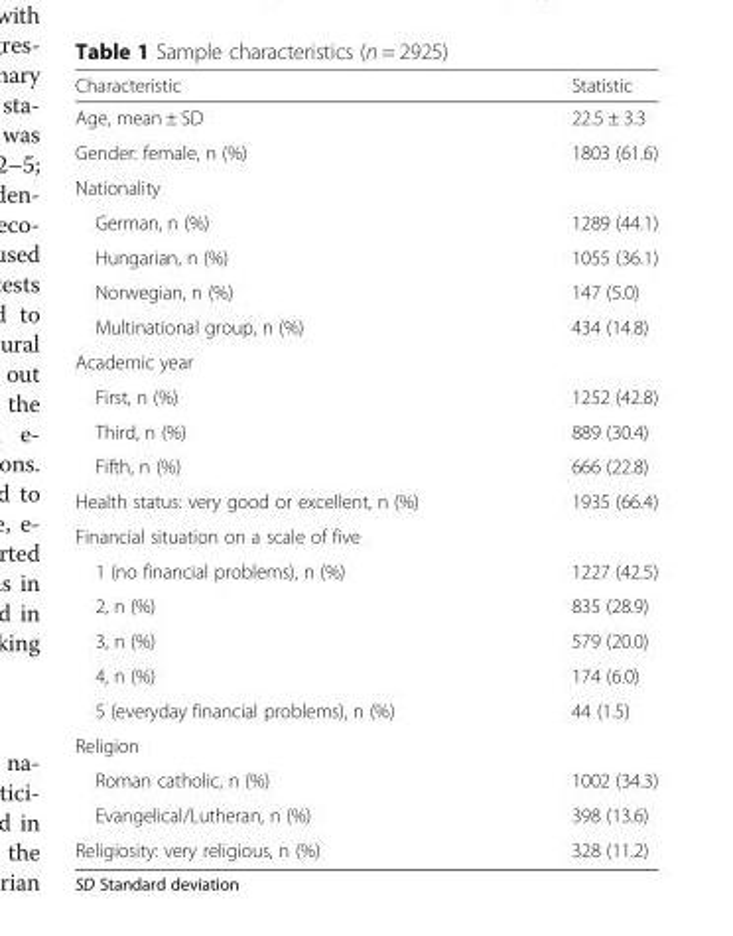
<table><thead><tr><td>Characteristic</td><td>Statistic</td></tr></thead><tbody><tr><td>Age, mean ± SD</td><td>22.5 ± 3.3</td></tr><tr><td>Gender: female, n (%)</td><td>1803 (61.6)</td></tr><tr><td colspan="2">Nationality</td></tr><tr><td>German, n (%)</td><td>1289 (44.1)</td></tr><tr><td>Hungarian, n (%)</td><td>1055 (36.1)</td></tr><tr><td>Norwegian, n (%)</td><td>147 (5.0)</td></tr><tr><td>Multinational group, n (%)</td><td>434 (14.8)</td></tr><tr><td colspan="2">Academic year</td></tr><tr><td>First, n (%)</td><td>1252 (42.8)</td></tr><tr><td>Third, n (%)</td><td>889 (30.4)</td></tr><tr><td>Fifth, n (%)</td><td>666 (22.8)</td></tr><tr><td>Health status: very good or excellent, n (%)</td><td>1935 (66.4)</td></tr><tr><td colspan="2">Financial situation on a scale of five</td></tr><tr><td>1 (no financial problems), n (%)</td><td>1227 (42.5)</td></tr><tr><td>2, n (%)</td><td>835 (28.9)</td></tr><tr><td>3, n (%)</td><td>579 (20.0)</td></tr><tr><td>4, n (%)</td><td>174 (6.0)</td></tr><tr><td>5 (everyday financial problems), n (%)</td><td>44 (1.5)</td></tr><tr><td colspan="2">Religion</td></tr><tr><td>Roman catholic, n (%)</td><td>1002 (34.3)</td></tr><tr><td>Evangelical/Lutheran, n (%)</td><td>398 (13.6)</td></tr><tr><td>Religiosity: very religious, n (%)</td><td>328 (11.2)</td></tr></tbody></table>